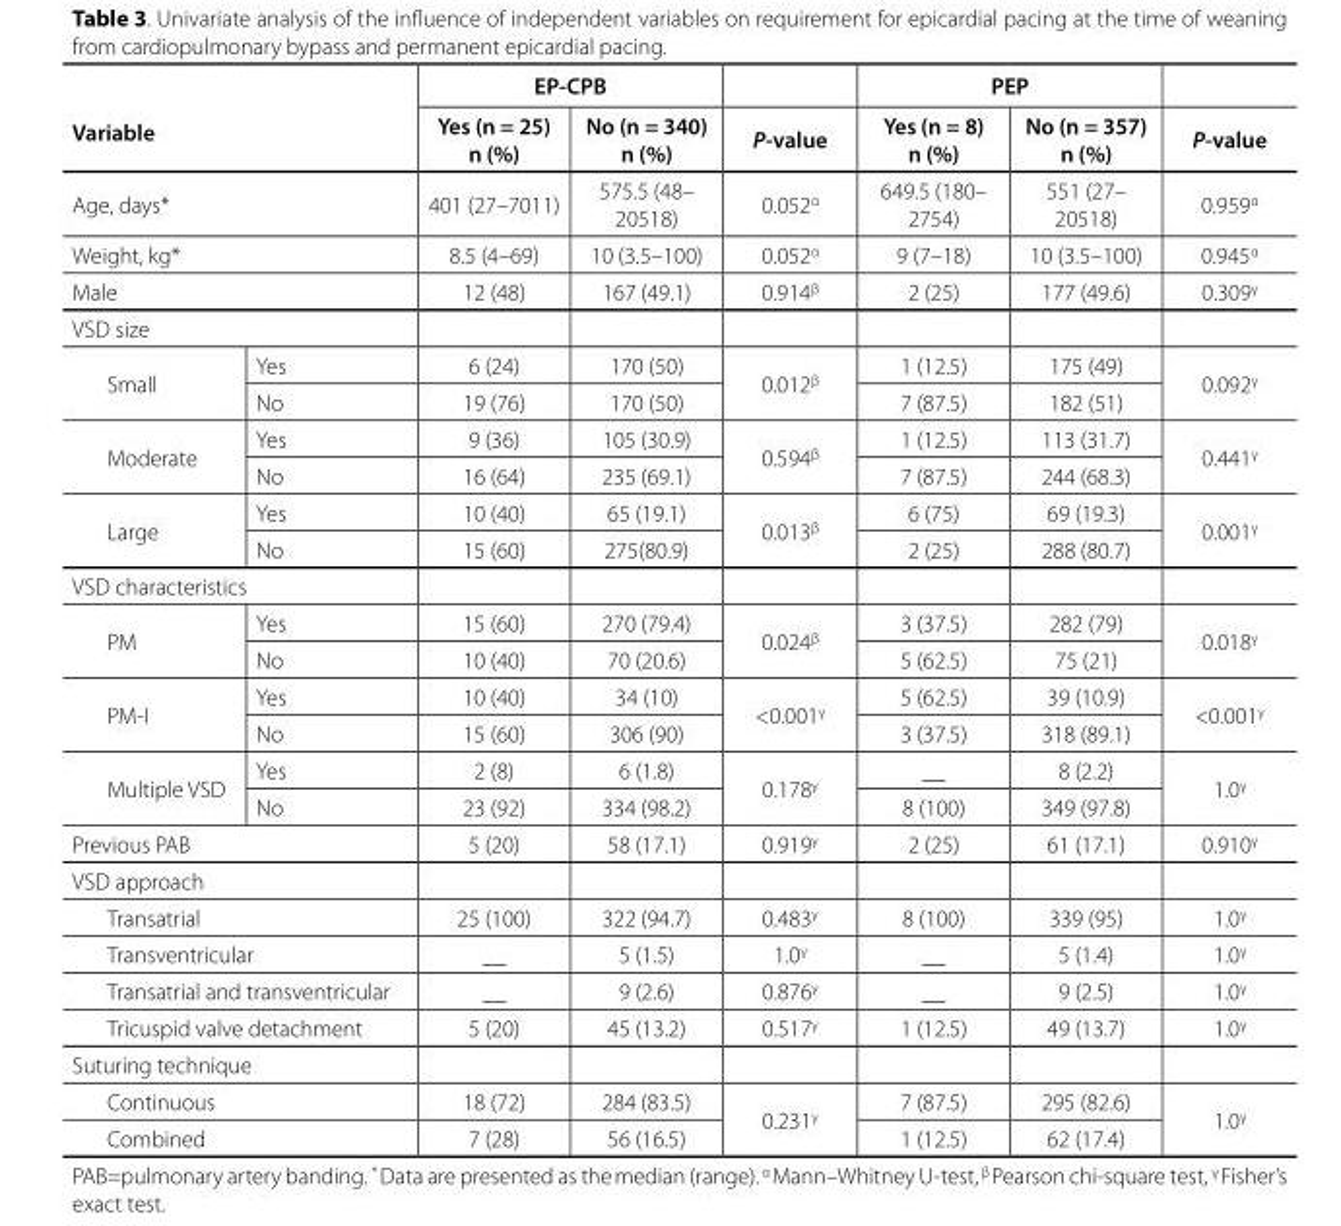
<table><thead><tr><td rowspan="2" colspan="2">Variable</td><td colspan="2">EP-CPB</td><td rowspan="2">P-value</td><td colspan="2">PEP</td><td rowspan="2">P-value</td></tr><tr><td>Yes (n = 25) n (%)</td><td>No (n = 340) n (%)</td><td>Yes (n = 8) n (%)</td><td>No (n = 357) n (%)</td></tr></thead><tbody><tr><td colspan="2">Age, days*</td><td>401 (27–7011)</td><td>575.5 (48– 20518)</td><td>0.052<sup>α</sup></td><td>649.5 (180– 2754)</td><td>551 (27– 20518)</td><td>0.959<sup>α</sup></td></tr><tr><td colspan="2">Weight, kg*</td><td>8.5 (4–69)</td><td>10 (3.5–100)</td><td>0.052<sup>α</sup></td><td>9 (7–18)</td><td>10 (3.5–100)</td><td>0.945<sup>α</sup></td></tr><tr><td colspan="2">Male</td><td>12 (48)</td><td>167 (49.1)</td><td>0.914<sup>β</sup></td><td>2 (25)</td><td>177 (49.6)</td><td>0.309<sup>γ</sup></td></tr><tr><td colspan="8">VSD size</td></tr><tr><td rowspan="2">Small</td><td>Yes</td><td>6 (24)</td><td>170 (50)</td><td rowspan="2">0.012<sup>β</sup></td><td>1 (12.5)</td><td>175 (49)</td><td rowspan="2">0.092<sup>γ</sup></td></tr><tr><td>No</td><td>19 (76)</td><td>170 (50)</td><td>7 (87.5)</td><td>182 (51)</td></tr><tr><td rowspan="2">Moderate</td><td>Yes</td><td>9 (36)</td><td>105 (30.9)</td><td rowspan="2">0.594<sup>β</sup></td><td>1 (12.5)</td><td>113 (31.7)</td><td rowspan="2">0.441<sup>γ</sup></td></tr><tr><td>No</td><td>16 (64)</td><td>235 (69.1)</td><td>7 (87.5)</td><td>244 (68.3)</td></tr><tr><td rowspan="2">Large</td><td>Yes</td><td>10 (40)</td><td>65 (19.1)</td><td rowspan="2">0.013<sup>β</sup></td><td>6 (75)</td><td>69 (19.3)</td><td rowspan="2">0.001<sup>γ</sup></td></tr><tr><td>No</td><td>15 (60)</td><td>275(80.9)</td><td>2 (25)</td><td>288 (80.7)</td></tr><tr><td colspan="8">VSD characteristics</td></tr><tr><td rowspan="2">PM</td><td>Yes</td><td>15 (60)</td><td>270 (79.4)</td><td rowspan="2">0.024<sup>β</sup></td><td>3 (37.5)</td><td>282 (79)</td><td rowspan="2">0.018<sup>γ</sup></td></tr><tr><td>No</td><td>10 (40)</td><td>70 (20.6)</td><td>5 (62.5)</td><td>75 (21)</td></tr><tr><td rowspan="2">PM-I</td><td>Yes</td><td>10 (40)</td><td>34 (10)</td><td rowspan="2">&lt;0.001<sup>γ</sup></td><td>5 (62.5)</td><td>39 (10.9)</td><td rowspan="2">&lt;0.001<sup>γ</sup></td></tr><tr><td>No</td><td>15 (60)</td><td>306 (90)</td><td>3 (37.5)</td><td>318 (89.1)</td></tr><tr><td rowspan="2">Multiple VSD</td><td>Yes</td><td>2 (8)</td><td>6 (1.8)</td><td rowspan="2">0.178<sup>γ</sup></td><td>__</td><td>8 (2.2)</td><td rowspan="2">1.0<sup>γ</sup></td></tr><tr><td>No</td><td>23 (92)</td><td>334 (98.2)</td><td>8 (100)</td><td>349 (97.8)</td></tr><tr><td colspan="2">Previous PAB</td><td>5 (20)</td><td>58 (17.1)</td><td>0.919<sup>γ</sup></td><td>2 (25)</td><td>61 (17.1)</td><td>0.910<sup>γ</sup></td></tr><tr><td colspan="8">VSD approach</td></tr><tr><td colspan="2">Transatrial</td><td>25 (100)</td><td>322 (94.7)</td><td>0.483<sup>γ</sup></td><td>8 (100)</td><td>339 (95)</td><td>1.0<sup>γ</sup></td></tr><tr><td colspan="2">Transventricular</td><td>__</td><td>5 (1.5)</td><td>1.0<sup>γ</sup></td><td>__</td><td>5 (1.4)</td><td>1.0<sup>γ</sup></td></tr><tr><td colspan="2">Transatrial and transventricular</td><td>__</td><td>9 (2.6)</td><td>0.876<sup>γ</sup></td><td>__</td><td>9 (2.5)</td><td>1.0<sup>γ</sup></td></tr><tr><td colspan="2">Tricuspid valve detachment</td><td>5 (20)</td><td>45 (13.2)</td><td>0.517<sup>γ</sup></td><td>1 (12.5)</td><td>49 (13.7)</td><td>1.0<sup>γ</sup></td></tr><tr><td colspan="8">Suturing technique</td></tr><tr><td colspan="2">Continuous</td><td>18 (72)</td><td>284 (83.5)</td><td rowspan="2">0.231<sup>γ</sup></td><td>7 (87.5)</td><td>295 (82.6)</td><td rowspan="2">1.0<sup>γ</sup></td></tr><tr><td colspan="2">Combined</td><td>7 (28)</td><td>56 (16.5)</td><td>1 (12.5)</td><td>62 (17.4)</td></tr></tbody></table>